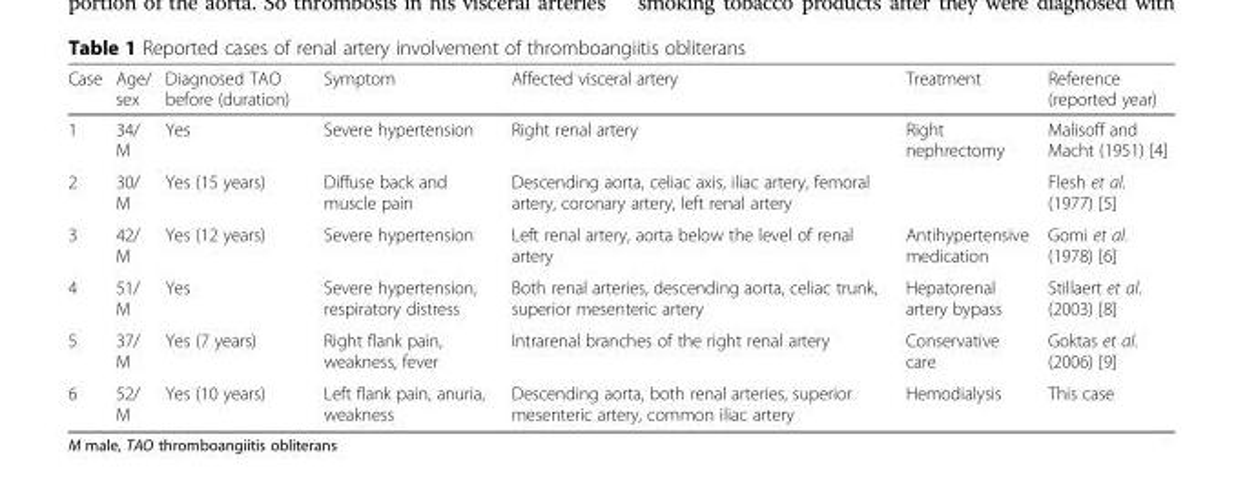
<table><thead><tr><td>Case</td><td>Age/ sex</td><td>Diagnosed TAO before (duration)</td><td>Symptom</td><td>Affected visceral artery</td><td>Treatment</td><td>Reference (reported year)</td></tr></thead><tbody><tr><td>1</td><td>34/ M</td><td>Yes</td><td>Severe hypertension</td><td>Right renal artery</td><td>Right nephrectomy</td><td>Malisoff and Macht (1951) [4]</td></tr><tr><td>2</td><td>30/ M</td><td>Yes (15 years)</td><td>Diffuse back and muscle pain</td><td>Descending aorta, celiac axis, iliac artery, femoral artery, coronary artery, left renal artery</td><td></td><td>Flesh et al. (1977) [5]</td></tr><tr><td>3</td><td>42/ M</td><td>Yes (12 years)</td><td>Severe hypertension</td><td>Left renal artery, aorta below the level of renal artery</td><td>Antihypertensive medication</td><td>Gomi et al. (1978) [6]</td></tr><tr><td>4</td><td>51/ M</td><td>Yes</td><td>Severe hypertension, respiratory distress</td><td>Both renal arteries, descending aorta, celiac trunk, superior mesenteric artery</td><td>Hepatorenal artery bypass</td><td>Stillaert et al. (2003) [8]</td></tr><tr><td>5</td><td>37/ M</td><td>Yes (7 years)</td><td>Right flank pain, weakness, fever</td><td>Intrarenal branches of the right renal artery</td><td>Conservative care</td><td>Goktas et al. (2006) [9]</td></tr><tr><td>6</td><td>52/ M</td><td>Yes (10 years)</td><td>Left flank pain, anuria, weakness</td><td>Descending aorta, both renal arteries, superior mesenteric artery, common iliac artery</td><td>Hemodialysis</td><td>This case</td></tr></tbody></table>